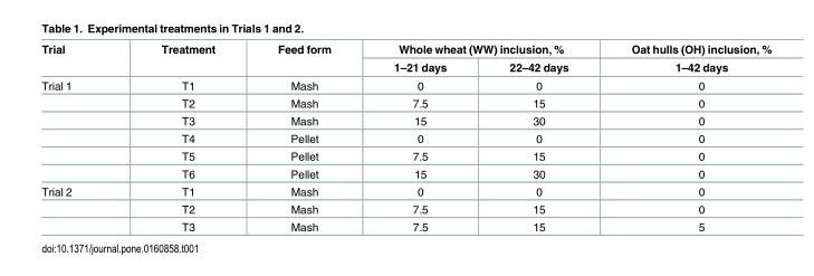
<table><thead><tr><td rowspan="2">Trial</td><td rowspan="2">Treatment</td><td rowspan="2">Feed form</td><td colspan="2">Whole wheat (WW) inclusion, %</td><td rowspan="2">Oat hulls (OH) inclusion, % 1–42 days</td></tr><tr><td>1–21 days</td><td>22–42 days</td></tr></thead><tbody><tr><td rowspan="6">Trial 1</td><td>T1</td><td>Mash</td><td>0</td><td>0</td><td>0</td></tr><tr><td>T2</td><td>Mash</td><td>7.5</td><td>15</td><td>0</td></tr><tr><td>T3</td><td>Mash</td><td>15</td><td>30</td><td>0</td></tr><tr><td>T4</td><td>Pellet</td><td>0</td><td>0</td><td>0</td></tr><tr><td>T5</td><td>Pellet</td><td>7.5</td><td>15</td><td>0</td></tr><tr><td>T6</td><td>Pellet</td><td>15</td><td>30</td><td>0</td></tr><tr><td rowspan="3">Trial 2</td><td>T1</td><td>Mash</td><td>0</td><td>0</td><td>0</td></tr><tr><td>T2</td><td>Mash</td><td>7.5</td><td>15</td><td>0</td></tr><tr><td>T3</td><td>Mash</td><td>7.5</td><td>15</td><td>5</td></tr></tbody></table>